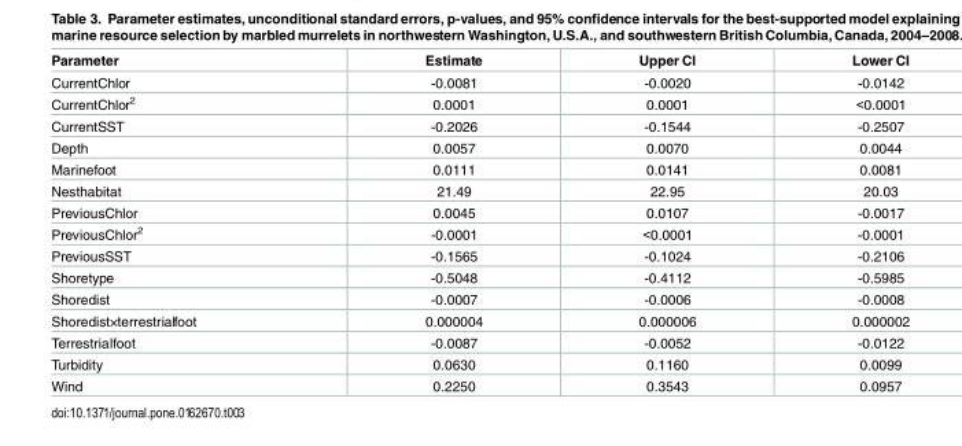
<table><thead><tr><td>Parameter</td><td>Estimate</td><td>Upper CI</td><td>Lower CI</td></tr></thead><tbody><tr><td>CurrentChlor</td><td>-0.0081</td><td>-0.0020</td><td>-0.0142</td></tr><tr><td>CurrentChlor<sup>2</sup></td><td>0.0001</td><td>0.0001</td><td>&lt;0.0001</td></tr><tr><td>CurrentSST</td><td>-0.2026</td><td>-0.1544</td><td>-0.2507</td></tr><tr><td>Depth</td><td>0.0057</td><td>0.0070</td><td>0.0044</td></tr><tr><td>Marinefoot</td><td>0.0111</td><td>0.0141</td><td>0.0081</td></tr><tr><td>Nesthabitat</td><td>21.49</td><td>22.95</td><td>20.03</td></tr><tr><td>PreviousChlor</td><td>0.0045</td><td>0.0107</td><td>-0.0017</td></tr><tr><td>PreviousChlor<sup>2</sup></td><td>-0.0001</td><td>&lt;0.0001</td><td>-0.0001</td></tr><tr><td>PreviousSST</td><td>-0.1565</td><td>-0.1024</td><td>-0.2106</td></tr><tr><td>Shoretype</td><td>-0.5048</td><td>-0.4112</td><td>-0.5985</td></tr><tr><td>Shoredist</td><td>-0.0007</td><td>-0.0006</td><td>-0.0008</td></tr><tr><td>Shoredist×terrestrialfoot</td><td>0.000004</td><td>0.000006</td><td>0.000002</td></tr><tr><td>Terrestrialfoot</td><td>-0.0087</td><td>-0.0052</td><td>-0.0122</td></tr><tr><td>Turbidity</td><td>0.0630</td><td>0.1160</td><td>0.0099</td></tr><tr><td>Wind</td><td>0.2250</td><td>0.3543</td><td>0.0957</td></tr></tbody></table>